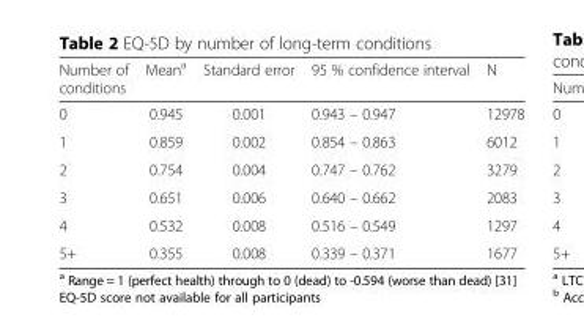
<table><thead><tr><td>Number of conditions</td><td>Mean<sup>a</sup></td><td>Standard error</td><td>95 % confidence interval</td><td>N</td></tr></thead><tbody><tr><td>0</td><td>0.945</td><td>0.001</td><td>0.943 – 0.947</td><td>12978</td></tr><tr><td>1</td><td>0.859</td><td>0.002</td><td>0.854 – 0.863</td><td>6012</td></tr><tr><td>2</td><td>0.754</td><td>0.004</td><td>0.747 – 0.762</td><td>3279</td></tr><tr><td>3</td><td>0.651</td><td>0.006</td><td>0.640 – 0.662</td><td>2083</td></tr><tr><td>4</td><td>0.532</td><td>0.008</td><td>0.516 – 0.549</td><td>1297</td></tr><tr><td>5+</td><td>0.355</td><td>0.008</td><td>0.339 – 0.371</td><td>1677</td></tr></tbody></table>